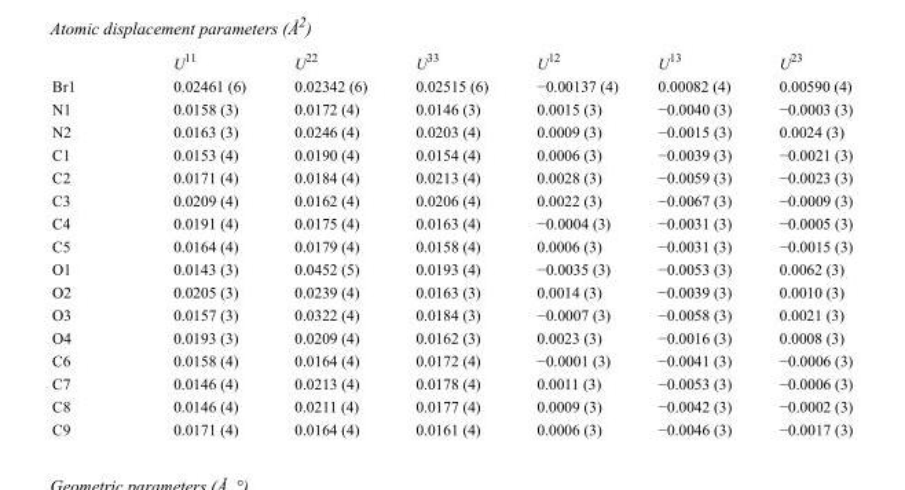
<table><thead><tr><td></td><td>U<sup>11</sup></td><td>U<sup>22</sup></td><td>U<sup>33</sup></td><td>U<sup>12</sup></td><td>U<sup>13</sup></td><td>U<sup>23</sup></td></tr></thead><tbody><tr><td>Br1</td><td>0.02461 (6)</td><td>0.02342 (6)</td><td>0.02515 (6)</td><td>−0.00137 (4)</td><td>0.00082 (4)</td><td>0.00590 (4)</td></tr><tr><td>N1</td><td>0.0158 (3)</td><td>0.0172 (4)</td><td>0.0146 (3)</td><td>0.0015 (3)</td><td>−0.0040 (3)</td><td>−0.0003 (3)</td></tr><tr><td>N2</td><td>0.0163 (3)</td><td>0.0246 (4)</td><td>0.0203 (4)</td><td>0.0009 (3)</td><td>−0.0015 (3)</td><td>0.0024 (3)</td></tr><tr><td>C1</td><td>0.0153 (4)</td><td>0.0190 (4)</td><td>0.0154 (4)</td><td>0.0006 (3)</td><td>−0.0039 (3)</td><td>−0.0021 (3)</td></tr><tr><td>C2</td><td>0.0171 (4)</td><td>0.0184 (4)</td><td>0.0213 (4)</td><td>0.0028 (3)</td><td>−0.0059 (3)</td><td>−0.0023 (3)</td></tr><tr><td>C3</td><td>0.0209 (4)</td><td>0.0162 (4)</td><td>0.0206 (4)</td><td>0.0022 (3)</td><td>−0.0067 (3)</td><td>−0.0009 (3)</td></tr><tr><td>C4</td><td>0.0191 (4)</td><td>0.0175 (4)</td><td>0.0163 (4)</td><td>−0.0004 (3)</td><td>−0.0031 (3)</td><td>−0.0005 (3)</td></tr><tr><td>C5</td><td>0.0164 (4)</td><td>0.0179 (4)</td><td>0.0158 (4)</td><td>0.0006 (3)</td><td>−0.0031 (3)</td><td>−0.0015 (3)</td></tr><tr><td>O1</td><td>0.0143 (3)</td><td>0.0452 (5)</td><td>0.0193 (4)</td><td>−0.0035 (3)</td><td>−0.0053 (3)</td><td>0.0062 (3)</td></tr><tr><td>O2</td><td>0.0205 (3)</td><td>0.0239 (4)</td><td>0.0163 (3)</td><td>0.0014 (3)</td><td>−0.0039 (3)</td><td>0.0010 (3)</td></tr><tr><td>O3</td><td>0.0157 (3)</td><td>0.0322 (4)</td><td>0.0184 (3)</td><td>−0.0007 (3)</td><td>−0.0058 (3)</td><td>0.0021 (3)</td></tr><tr><td>O4</td><td>0.0193 (3)</td><td>0.0209 (4)</td><td>0.0162 (3)</td><td>0.0023 (3)</td><td>−0.0016 (3)</td><td>0.0008 (3)</td></tr><tr><td>C6</td><td>0.0158 (4)</td><td>0.0164 (4)</td><td>0.0172 (4)</td><td>−0.0001 (3)</td><td>−0.0041 (3)</td><td>−0.0006 (3)</td></tr><tr><td>C7</td><td>0.0146 (4)</td><td>0.0213 (4)</td><td>0.0178 (4)</td><td>0.0011 (3)</td><td>−0.0053 (3)</td><td>−0.0006 (3)</td></tr><tr><td>C8</td><td>0.0146 (4)</td><td>0.0211 (4)</td><td>0.0177 (4)</td><td>0.0009 (3)</td><td>−0.0042 (3)</td><td>−0.0002 (3)</td></tr><tr><td>C9</td><td>0.0171 (4)</td><td>0.0164 (4)</td><td>0.0161 (4)</td><td>0.0006 (3)</td><td>−0.0046 (3)</td><td>−0.0017 (3)</td></tr></tbody></table>